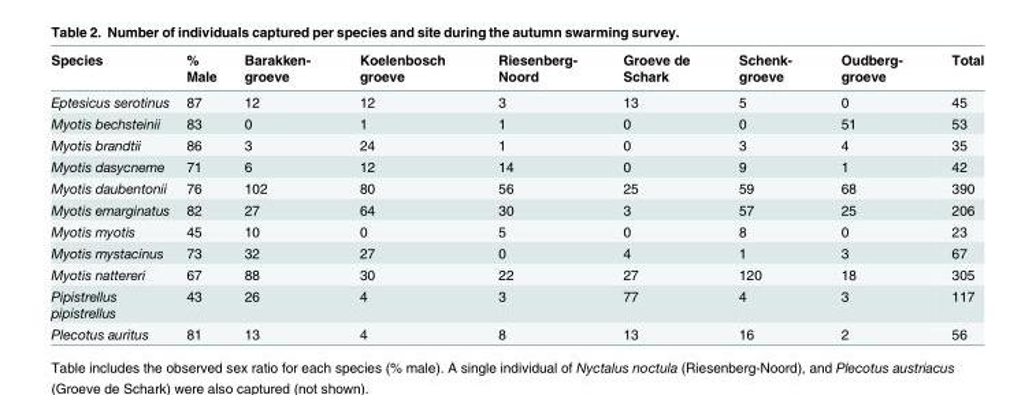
<table><thead><tr><td>Species</td><td>% Male</td><td>Barakken- groeve</td><td>Koelenbosch groeve</td><td>Riesenberg- Noord</td><td>Groeve de Schark</td><td>Schenk- groeve</td><td>Oudberg- groeve</td><td>Total</td></tr></thead><tbody><tr><td>Eptesicus serotinus</td><td>87</td><td>12</td><td>12</td><td>3</td><td>13</td><td>5</td><td>0</td><td>45</td></tr><tr><td>Myotis bechsteinii</td><td>83</td><td>0</td><td>1</td><td>1</td><td>0</td><td>0</td><td>51</td><td>53</td></tr><tr><td>Myotis brandtii</td><td>86</td><td>3</td><td>24</td><td>1</td><td>0</td><td>3</td><td>4</td><td>35</td></tr><tr><td>Myotis dasycneme</td><td>71</td><td>6</td><td>12</td><td>14</td><td>0</td><td>9</td><td>1</td><td>42</td></tr><tr><td>Myotis daubentonii</td><td>76</td><td>102</td><td>80</td><td>56</td><td>25</td><td>59</td><td>68</td><td>390</td></tr><tr><td>Myotis emarginatus</td><td>82</td><td>27</td><td>64</td><td>30</td><td>3</td><td>57</td><td>25</td><td>206</td></tr><tr><td>Myotis myotis</td><td>45</td><td>10</td><td>0</td><td>5</td><td>0</td><td>8</td><td>0</td><td>23</td></tr><tr><td>Myotis mystacinus</td><td>73</td><td>32</td><td>27</td><td>0</td><td>4</td><td>1</td><td>3</td><td>67</td></tr><tr><td>Myotis nattereri</td><td>67</td><td>88</td><td>30</td><td>22</td><td>27</td><td>120</td><td>18</td><td>305</td></tr><tr><td>Pipistrellus pipistrellus</td><td>43</td><td>26</td><td>4</td><td>3</td><td>77</td><td>4</td><td>3</td><td>117</td></tr><tr><td>Plecotus auritus</td><td>81</td><td>13</td><td>4</td><td>8</td><td>13</td><td>16</td><td>2</td><td>56</td></tr></tbody></table>